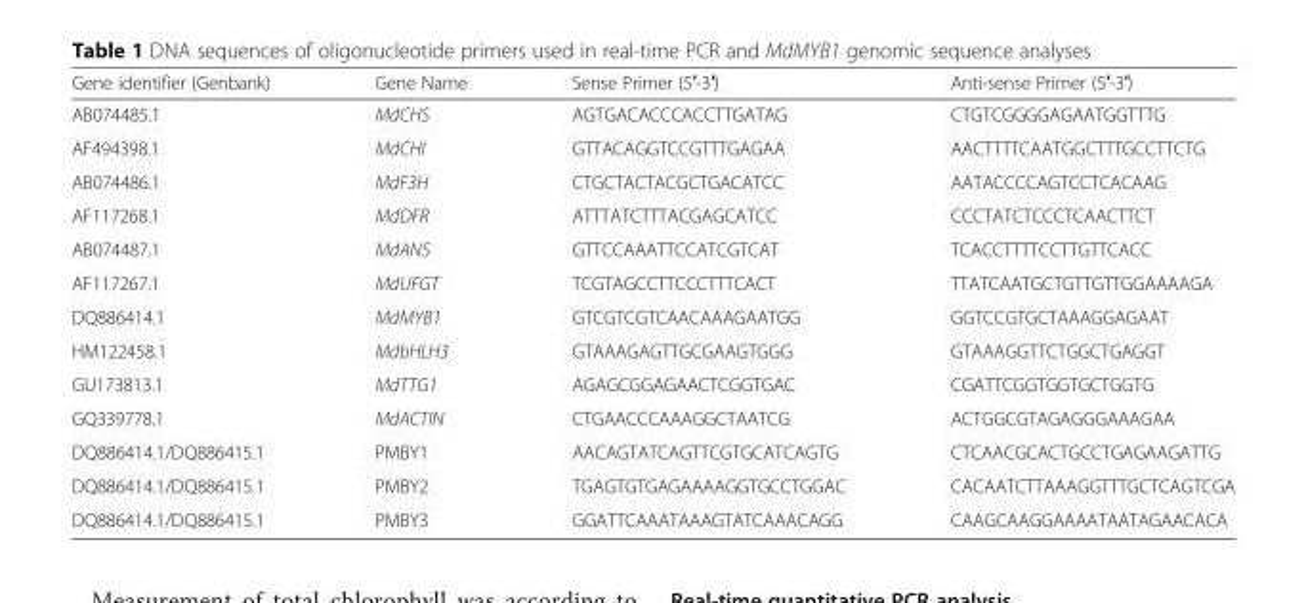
<table><thead><tr><td>Gene identifier (Genbank)</td><td>Gene Name</td><td>Sense Primer (5′-3′)</td><td>Anti-sense Primer (5′-3′)</td></tr></thead><tbody><tr><td>AB074485.1</td><td>MdCHS</td><td>AGTGACACCCACCTTGATAG</td><td>CTGTCGGGGAGAATGGTTTG</td></tr><tr><td>AF494398.1</td><td>MdCHI</td><td>GTTACAGGTCCGTTTGAGAA</td><td>AACTTTTCAATGGCTTTGCCTTCTG</td></tr><tr><td>AB074486.1</td><td>MdF3H</td><td>CTGCTACTACGCTGACATCC</td><td>AATACCCCAGTCCTCACAAG</td></tr><tr><td>AF117268.1</td><td>MdDFR</td><td>ATTTATCTTTACGAGCATCC</td><td>CCCTATCTCCCTCAACTTCT</td></tr><tr><td>AB074487.1</td><td>MdANS</td><td>GTTCCAAATTCCATCGTCAT</td><td>TCACCTTTTCCTTGTTCACC</td></tr><tr><td>AF117267.1</td><td>MdUFGT</td><td>TCGTAGCCTTCCCTTTCACT</td><td>TTATCAATGCTGTTGTTGGAAAAGA</td></tr><tr><td>DQ886414.1</td><td>MdMYB1</td><td>GTCGTCGTCAACAAAGAATGG</td><td>GGTCCGTGCTAAAGGAGAAT</td></tr><tr><td>HM122458.1</td><td>MdbHLH3</td><td>GTAAAGAGTTGCGAAGTGGG</td><td>GTAAAGGTTCTGGCTGAGGT</td></tr><tr><td>GU173813.1</td><td>MdTTG1</td><td>AGAGCGGAGAACTCGGTGAC</td><td>CGATTCGGTGGTGCTGGTG</td></tr><tr><td>GQ339778.1</td><td>MdACTIN</td><td>CTGAACCCAAAGGCTAATCG</td><td>ACTGGCGTAGAGGGAAAGAA</td></tr><tr><td>DQ886414.1/DQ886415.1</td><td>PMBY1</td><td>AACAGTATCAGTTCGTGCATCAGTG</td><td>CTCAACGCACTGCCTGAGAAGATTG</td></tr><tr><td>DQ886414.1/DQ886415.1</td><td>PMBY2</td><td>TGAGTGTGAGAAAAGGTGCCTGGAC</td><td>CACAATCTTAAAGGTTTGCTCAGTCGA</td></tr><tr><td>DQ886414.1/DQ886415.1</td><td>PMBY3</td><td>GGATTCAAATAAAGTATCAAACAGG</td><td>CAAGCAAGGAAAATAATAGAACACA</td></tr></tbody></table>